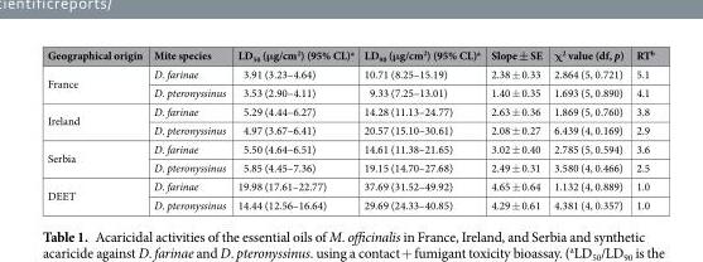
<table><thead><tr><td>Geographical origin</td><td>Mite species</td><td>LD<sub>50</sub> (μg/cm<sup>2</sup>) (95% CL)<sup>a</sup></td><td>LD<sub>90</sub> (μg/cm<sup>2</sup>) (95% CL)<sup>a</sup></td><td>Slope ± SE</td><td>χ<sup>2</sup> value (df, p)</td><td>RT<sup>b</sup></td></tr></thead><tbody><tr><td rowspan="2">France</td><td>D. farinae</td><td>3.91 (3.23–4.64)</td><td>10.71 (8.25–15.19)</td><td>2.38 ± 0.33</td><td>2.864 (5, 0.721)</td><td>5.1</td></tr><tr><td>D. pteronyssinus</td><td>3.53 (2.90–4.11)</td><td>9.33 (7.25–13.01)</td><td>1.40 ± 0.35</td><td>1.693 (5, 0.890)</td><td>4.1</td></tr><tr><td rowspan="2">Ireland</td><td>D. farinae</td><td>5.29 (4.44–6.27)</td><td>14.28 (11.13–24.77)</td><td>2.63 ± 0.36</td><td>1.869 (5, 0.760)</td><td>3.8</td></tr><tr><td>D. pteronyssinus</td><td>4.97 (3.67–6.41)</td><td>20.57 (15.10–30.61)</td><td>2.08 ± 0.27</td><td>6.439 (4, 0.169)</td><td>2.9</td></tr><tr><td rowspan="2">Serbia</td><td>D. farinae</td><td>5.50 (4.64–6.51)</td><td>14.61 (11.38–21.65)</td><td>3.02 ± 0.40</td><td>2.785 (5, 0.594)</td><td>3.6</td></tr><tr><td>D. pteronyssinus</td><td>5.85 (4.45–7.36)</td><td>19.15 (14.70–27.68)</td><td>2.49 ± 0.31</td><td>3.580 (4, 0.466)</td><td>2.5</td></tr><tr><td rowspan="2">DEET</td><td>D. farinae</td><td>19.98 (17.61–22.77)</td><td>37.69 (31.52–49.92)</td><td>4.65 ± 0.64</td><td>1.132 (4, 0.889)</td><td>1.0</td></tr><tr><td>D. pteronyssinus</td><td>14.44 (12.56–16.64)</td><td>29.69 (24.33–40.85)</td><td>4.29 ± 0.61</td><td>4.381 (4, 0.357)</td><td>1.0</td></tr></tbody></table>